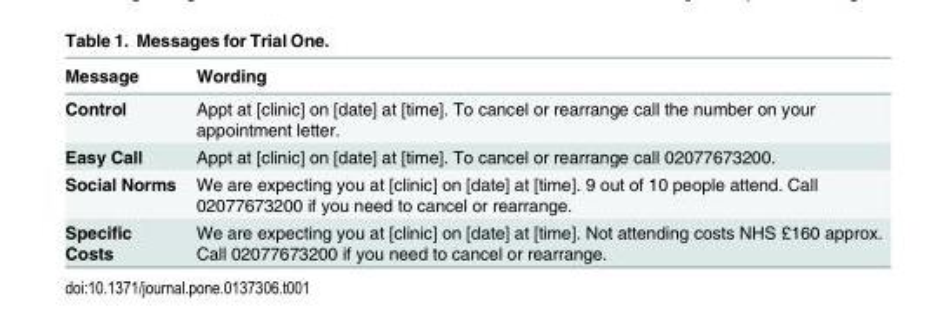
<table><thead><tr><td>Message</td><td>Wording</td></tr></thead><tbody><tr><td>Control</td><td>Appt at [clinic] on [date] at [time]. To cancel or rearrange call the number on your appointment letter.</td></tr><tr><td>Easy Call</td><td>Appt at [clinic] on [date] at [time]. To cancel or rearrange call 02077673200.</td></tr><tr><td>Social Norms</td><td>We are expecting you at [clinic] on [date] at [time]. 9 out of 10 people attend. Call 02077673200 if you need to cancel or rearrange.</td></tr><tr><td>Specific Costs</td><td>We are expecting you at [clinic] on [date] at [time]. Not attending costs NHS £160 approx. Call 02077673200 if you need to cancel or rearrange.</td></tr></tbody></table>